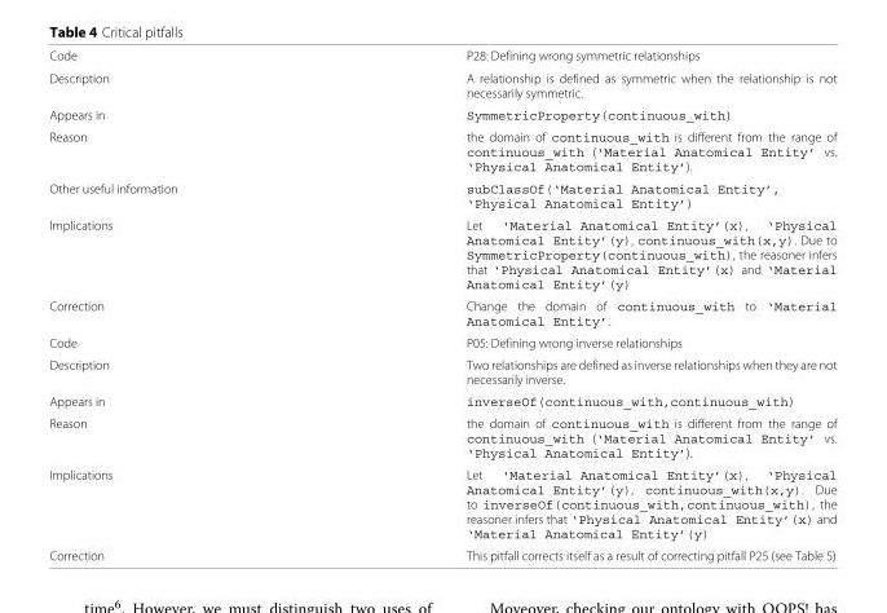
<table><tbody><tr><td>Code</td><td>P28: Defining wrong symmetric relationships</td></tr><tr><td>Description</td><td>A relationship is defined as symmetric when the relationship is not necessarily symmetric.</td></tr><tr><td>Appears in</td><td>SymmetricProperty(continuous_with)</td></tr><tr><td>Reason</td><td>the domain of continuous_with is different from the range of continuous_with (‘Material Anatomical Entity’ vs. ‘Physical Anatomical Entity’).</td></tr><tr><td>Other useful information</td><td>subClassOf(‘Material Anatomical Entity’, ‘Physical Anatomical Entity’)</td></tr><tr><td>Implications</td><td>Let ‘Material Anatomical Entity’(x), ‘Physical Anatomical Entity’(y), continuous_with(x,y). Due to SymmetricProperty(continuous_with), the reasoner infers that ‘Physical Anatomical Entity’(x) and ‘Material Anatomical Entity’(y)</td></tr><tr><td>Correction</td><td>Change the domain of continuous_with to ‘Material Anatomical Entity’.</td></tr><tr><td>Code</td><td>P05: Defining wrong inverse relationships</td></tr><tr><td>Description</td><td>Two relationships are defined as inverse relationships when they are not necessarily inverse.</td></tr><tr><td>Appears in</td><td>inverseOf(continuous_with,continuous_with)</td></tr><tr><td>Reason</td><td>the domain of continuous_with is different from the range of continuous_with (‘Material Anatomical Entity’ vs. ‘Physical Anatomical Entity’).</td></tr><tr><td>Implications</td><td>Let ‘Material Anatomical Entity’(x), ‘Physical Anatomical Entity’(y), continuous_with(x,y). Due to inverseOf(continuous_with,continuous_with), the reasoner infers that ‘Physical Anatomical Entity’(x) and ‘Material Anatomical Entity’(y)</td></tr><tr><td>Correction</td><td>This pitfall corrects itself as a result of correcting pitfall P25 (see Table 5)</td></tr></tbody></table>